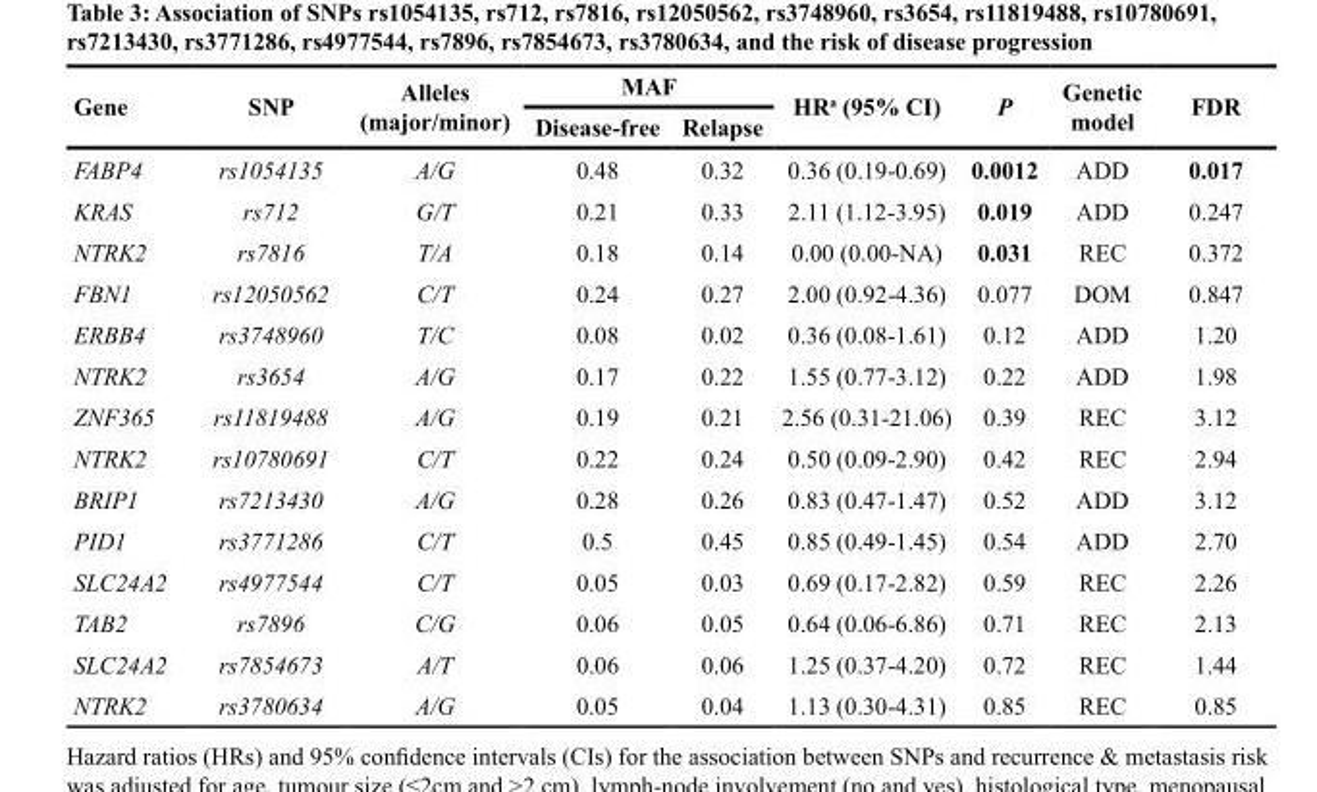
<table><thead><tr><td rowspan="2">Gene</td><td rowspan="2">SNP</td><td rowspan="2">Alleles (major/minor)</td><td colspan="2">MAF</td><td rowspan="2">HR<sup>a</sup> (95% CI)</td><td rowspan="2">P</td><td rowspan="2">Genetic model</td><td rowspan="2">FDR</td></tr><tr><td>Disease-free</td><td>Relapse</td></tr></thead><tbody><tr><td>FABP4</td><td>rs1054135</td><td>A/G</td><td>0.48</td><td>0.32</td><td>0.36 (0.19-0.69)</td><td>0.0012</td><td>ADD</td><td>0.017</td></tr><tr><td>KRAS</td><td>rs712</td><td>G/T</td><td>0.21</td><td>0.33</td><td>2.11 (1.12-3.95)</td><td>0.019</td><td>ADD</td><td>0.247</td></tr><tr><td>NTRK2</td><td>rs7816</td><td>T/A</td><td>0.18</td><td>0.14</td><td>0.00 (0.00-NA)</td><td>0.031</td><td>REC</td><td>0.372</td></tr><tr><td>FBN1</td><td>rs12050562</td><td>C/T</td><td>0.24</td><td>0.27</td><td>2.00 (0.92-4.36)</td><td>0.077</td><td>DOM</td><td>0.847</td></tr><tr><td>ERBB4</td><td>rs3748960</td><td>T/C</td><td>0.08</td><td>0.02</td><td>0.36 (0.08-1.61)</td><td>0.12</td><td>ADD</td><td>1.20</td></tr><tr><td>NTRK2</td><td>rs3654</td><td>A/G</td><td>0.17</td><td>0.22</td><td>1.55 (0.77-3.12)</td><td>0.22</td><td>ADD</td><td>1.98</td></tr><tr><td>ZNF365</td><td>rs11819488</td><td>A/G</td><td>0.19</td><td>0.21</td><td>2.56 (0.31-21.06)</td><td>0.39</td><td>REC</td><td>3.12</td></tr><tr><td>NTRK2</td><td>rs10780691</td><td>C/T</td><td>0.22</td><td>0.24</td><td>0.50 (0.09-2.90)</td><td>0.42</td><td>REC</td><td>2.94</td></tr><tr><td>BRIP1</td><td>rs7213430</td><td>A/G</td><td>0.28</td><td>0.26</td><td>0.83 (0.47-1.47)</td><td>0.52</td><td>ADD</td><td>3.12</td></tr><tr><td>PID1</td><td>rs3771286</td><td>C/T</td><td>0.5</td><td>0.45</td><td>0.85 (0.49-1.45)</td><td>0.54</td><td>ADD</td><td>2.70</td></tr><tr><td>SLC24A2</td><td>rs4977544</td><td>C/T</td><td>0.05</td><td>0.03</td><td>0.69 (0.17-2.82)</td><td>0.59</td><td>REC</td><td>2.26</td></tr><tr><td>TAB2</td><td>rs7896</td><td>C/G</td><td>0.06</td><td>0.05</td><td>0.64 (0.06-6.86)</td><td>0.71</td><td>REC</td><td>2.13</td></tr><tr><td>SLC24A2</td><td>rs7854673</td><td>A/T</td><td>0.06</td><td>0.06</td><td>1.25 (0.37-4.20)</td><td>0.72</td><td>REC</td><td>1.44</td></tr><tr><td>NTRK2</td><td>rs3780634</td><td>A/G</td><td>0.05</td><td>0.04</td><td>1.13 (0.30-4.31)</td><td>0.85</td><td>REC</td><td>0.85</td></tr></tbody></table>